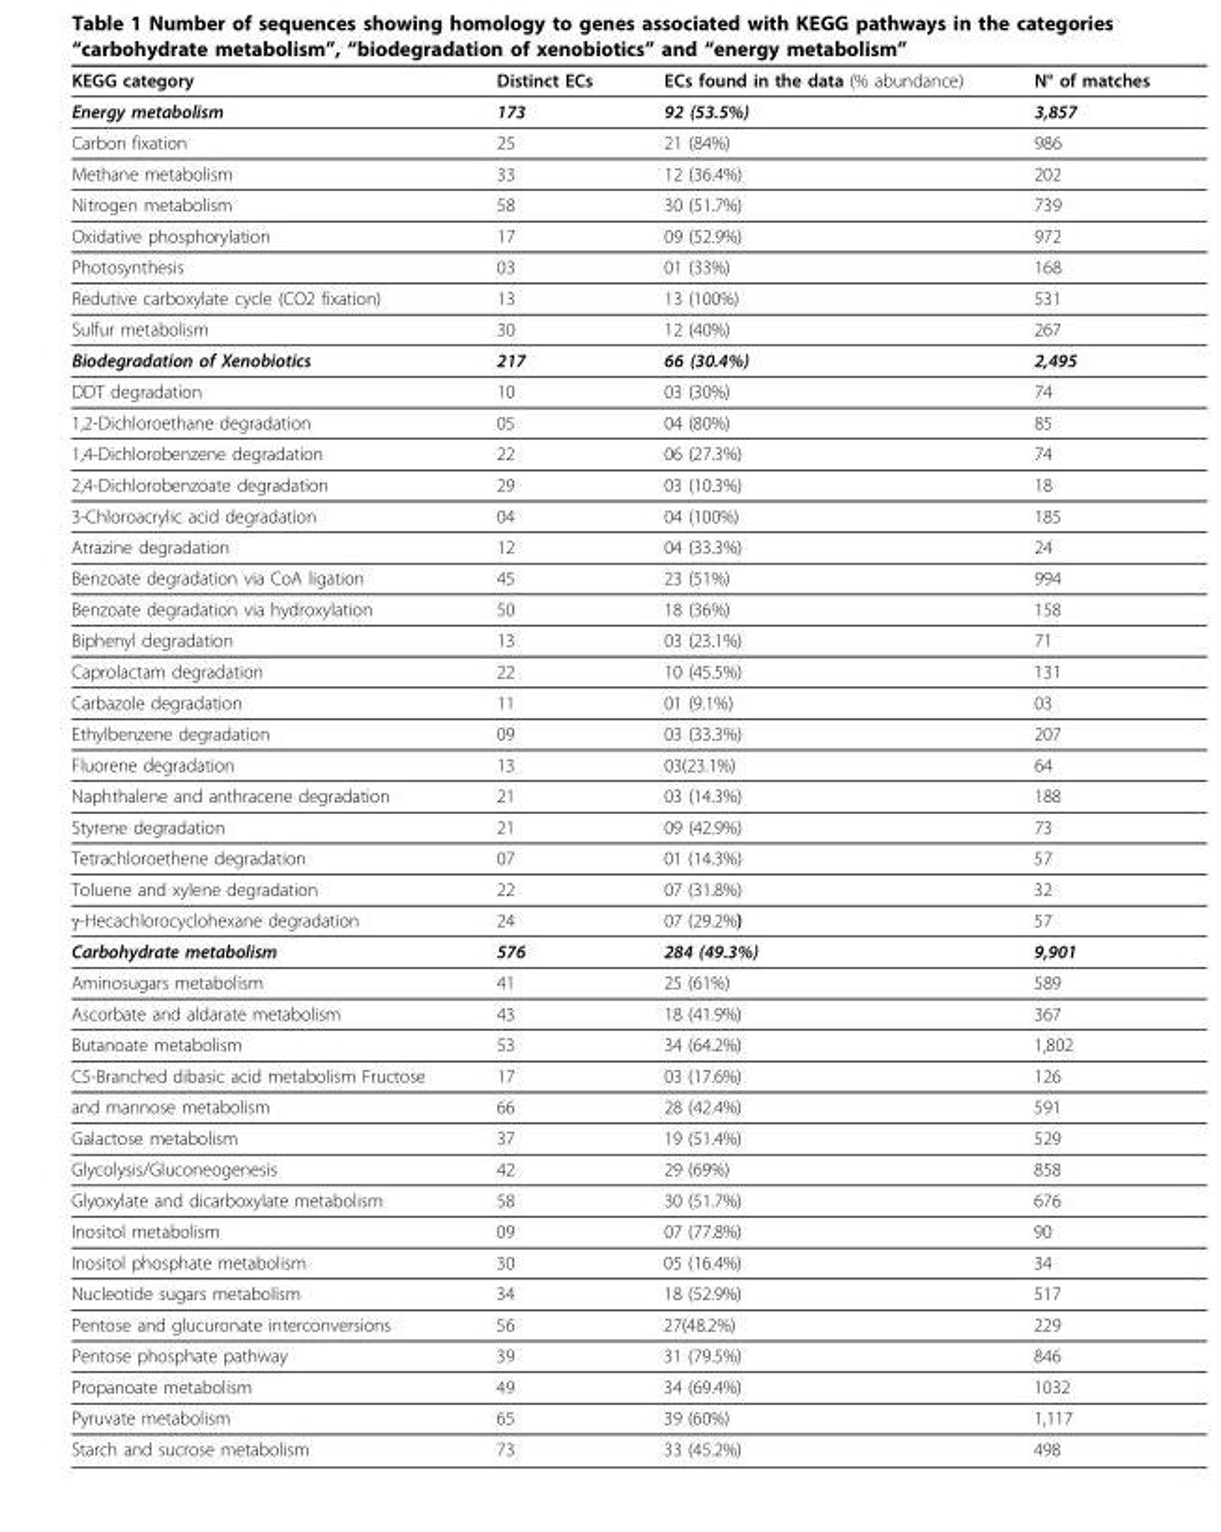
<table><thead><tr><td>KEGG category</td><td>Distinct ECs</td><td>ECs found in the data (% abundance)</td><td>N° of matches</td></tr></thead><tbody><tr><td>Energy metabolism</td><td>173</td><td>92 (53.5%)</td><td>3,857</td></tr><tr><td>Carbon fixation</td><td>25</td><td>21 (84%)</td><td>986</td></tr><tr><td>Methane metabolism</td><td>33</td><td>12 (36.4%)</td><td>202</td></tr><tr><td>Nitrogen metabolism</td><td>58</td><td>30 (51.7%)</td><td>739</td></tr><tr><td>Oxidative phosphorylation</td><td>17</td><td>09 (52.9%)</td><td>972</td></tr><tr><td>Photosynthesis</td><td>03</td><td>01 (33%)</td><td>168</td></tr><tr><td>Redutive carboxylate cycle (CO2 fixation)</td><td>13</td><td>13 (100%)</td><td>531</td></tr><tr><td>Sulfur metabolism</td><td>30</td><td>12 (40%)</td><td>267</td></tr><tr><td>Biodegradation of Xenobiotics</td><td>217</td><td>66 (30.4%)</td><td>2,495</td></tr><tr><td>DDT degradation</td><td>10</td><td>03 (30%)</td><td>74</td></tr><tr><td>1,2-Dichloroethane degradation</td><td>05</td><td>04 (80%)</td><td>85</td></tr><tr><td>1,4-Dichlorobenzene degradation</td><td>22</td><td>06 (27.3%)</td><td>74</td></tr><tr><td>2,4-Dichlorobenzoate degradation</td><td>29</td><td>03 (10.3%)</td><td>18</td></tr><tr><td>3-Chloroacrylic acid degradation</td><td>04</td><td>04 (100%)</td><td>185</td></tr><tr><td>Atrazine degradation</td><td>12</td><td>04 (33.3%)</td><td>24</td></tr><tr><td>Benzoate degradation via CoA ligation</td><td>45</td><td>23 (51%)</td><td>994</td></tr><tr><td>Benzoate degradation via hydroxylation</td><td>50</td><td>18 (36%)</td><td>158</td></tr><tr><td>Biphenyl degradation</td><td>13</td><td>03 (23.1%)</td><td>71</td></tr><tr><td>Caprolactam degradation</td><td>22</td><td>10 (45.5%)</td><td>131</td></tr><tr><td>Carbazole degradation</td><td>11</td><td>01 (9.1%)</td><td>03</td></tr><tr><td>Ethylbenzene degradation</td><td>09</td><td>03 (33.3%)</td><td>207</td></tr><tr><td>Fluorene degradation</td><td>13</td><td>03(23.1%)</td><td>64</td></tr><tr><td>Naphthalene and anthracene degradation</td><td>21</td><td>03 (14.3%)</td><td>188</td></tr><tr><td>Styrene degradation</td><td>21</td><td>09 (42.9%)</td><td>73</td></tr><tr><td>Tetrachloroethene degradation</td><td>07</td><td>01 (14.3%)</td><td>57</td></tr><tr><td>Toluene and xylene degradation</td><td>22</td><td>07 (31.8%)</td><td>32</td></tr><tr><td>γ-Hecachlorocyclohexane degradation</td><td>24</td><td>07 (29.2%)</td><td>57</td></tr><tr><td>Carbohydrate metabolism</td><td>576</td><td>284 (49.3%)</td><td>9,901</td></tr><tr><td>Aminosugars metabolism</td><td>41</td><td>25 (61%)</td><td>589</td></tr><tr><td>Ascorbate and aldarate metabolism</td><td>43</td><td>18 (41.9%)</td><td>367</td></tr><tr><td>Butanoate metabolism</td><td>53</td><td>34 (64.2%)</td><td>1,802</td></tr><tr><td>C5-Branched dibasic acid metabolism Fructose</td><td>17</td><td>03 (17.6%)</td><td>126</td></tr><tr><td>and mannose metabolism</td><td>66</td><td>28 (42.4%)</td><td>591</td></tr><tr><td>Galactose metabolism</td><td>37</td><td>19 (51.4%)</td><td>529</td></tr><tr><td>Glycolysis/Gluconeogenesis</td><td>42</td><td>29 (69%)</td><td>858</td></tr><tr><td>Glyoxylate and dicarboxylate metabolism</td><td>58</td><td>30 (51.7%)</td><td>676</td></tr><tr><td>Inositol metabolism</td><td>09</td><td>07 (77.8%)</td><td>90</td></tr><tr><td>Inositol phosphate metabolism</td><td>30</td><td>05 (16.4%)</td><td>34</td></tr><tr><td>Nucleotide sugars metabolism</td><td>34</td><td>18 (52.9%)</td><td>517</td></tr><tr><td>Pentose and glucuronate interconversions</td><td>56</td><td>27(48.2%)</td><td>229</td></tr><tr><td>Pentose phosphate pathway</td><td>39</td><td>31 (79.5%)</td><td>846</td></tr><tr><td>Propanoate metabolism</td><td>49</td><td>34 (69.4%)</td><td>1032</td></tr><tr><td>Pyruvate metabolism</td><td>65</td><td>39 (60%)</td><td>1,117</td></tr><tr><td>Starch and sucrose metabolism</td><td>73</td><td>33 (45.2%)</td><td>498</td></tr></tbody></table>